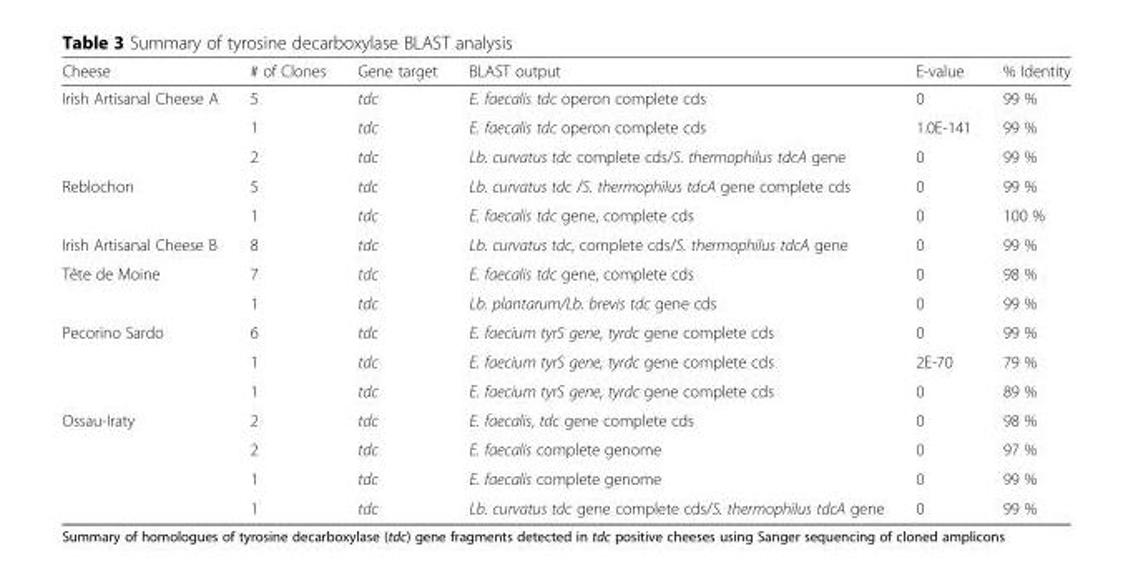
<table><thead><tr><td>Cheese</td><td># of Clones</td><td>Gene target</td><td>BLAST output</td><td>E-value</td><td>% Identity</td></tr></thead><tbody><tr><td rowspan="3">Irish Artisanal Cheese A</td><td>5</td><td>tdc</td><td>E. faecalis tdc operon complete cds</td><td>0</td><td>99 %</td></tr><tr><td>1</td><td>tdc</td><td>E. faecalis tdc operon complete cds</td><td>1.0E-141</td><td>99 %</td></tr><tr><td>2</td><td>tdc</td><td>Lb. curvatus tdc complete cds/S. thermophilus tdcA gene</td><td>0</td><td>99 %</td></tr><tr><td rowspan="2">Reblochon</td><td>5</td><td>tdc</td><td>Lb. curvatus tdc /S. thermophilus tdcA gene complete cds</td><td>0</td><td>99 %</td></tr><tr><td>1</td><td>tdc</td><td>E. faecalis tdc gene, complete cds</td><td>0</td><td>100 %</td></tr><tr><td>Irish Artisanal Cheese B</td><td>8</td><td>tdc</td><td>Lb. curvatus tdc, complete cds/S. thermophilus tdcA gene</td><td>0</td><td>99 %</td></tr><tr><td rowspan="2">Tête de Moine</td><td>7</td><td>tdc</td><td>E. faecalis tdc gene, complete cds</td><td>0</td><td>98 %</td></tr><tr><td>1</td><td>tdc</td><td>Lb. plantarum/Lb. brevis tdc gene cds</td><td>0</td><td>99 %</td></tr><tr><td rowspan="3">Pecorino Sardo</td><td>6</td><td>tdc</td><td>E. faecium tyrS gene, tyrdc gene complete cds</td><td>0</td><td>99 %</td></tr><tr><td>1</td><td>tdc</td><td>E. faecium tyrS gene, tyrdc gene complete cds</td><td>2E-70</td><td>79 %</td></tr><tr><td>1</td><td>tdc</td><td>E. faecium tyrS gene, tyrdc gene complete cds</td><td>0</td><td>89 %</td></tr><tr><td rowspan="4">Ossau-Iraty</td><td>2</td><td>tdc</td><td>E. faecalis, tdc gene complete cds</td><td>0</td><td>98 %</td></tr><tr><td>2</td><td>tdc</td><td>E. faecalis complete genome</td><td>0</td><td>97 %</td></tr><tr><td>1</td><td>tdc</td><td>E. faecalis complete genome</td><td>0</td><td>99 %</td></tr><tr><td>1</td><td>tdc</td><td>Lb. curvatus tdc gene complete cds/S. thermophilus tdcA gene</td><td>0</td><td>99 %</td></tr></tbody></table>